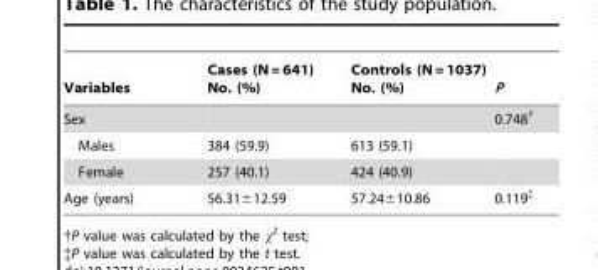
<table><thead><tr><td>Variables</td><td>Cases (N = 641) No. (%)</td><td>Controls (N = 1037) No. (%)</td><td>P</td></tr></thead><tbody><tr><td>Sex</td><td></td><td></td><td>0.748†</td></tr><tr><td>Males</td><td>384 (59.9)</td><td>613 (59.1)</td><td></td></tr><tr><td>Female</td><td>257 (40.1)</td><td>424 (40.9)</td><td></td></tr><tr><td>Age (years)</td><td>56.31±12.59</td><td>57.24±10.86</td><td>0.119‡</td></tr></tbody></table>